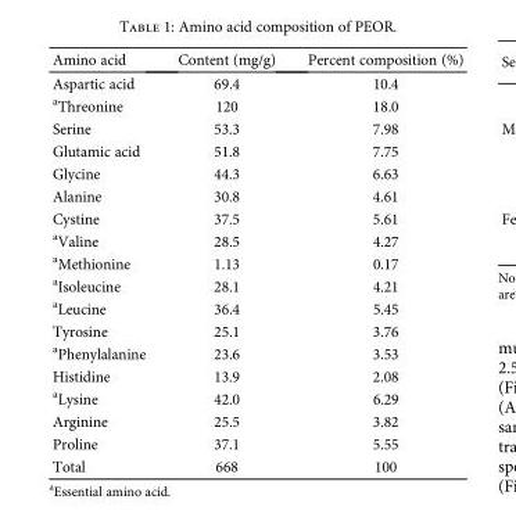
<table><thead><tr><td>Amino acid</td><td>Content (mg/g)</td><td>Percent composition (%)</td></tr></thead><tbody><tr><td>Aspartic acid</td><td>69.4</td><td>10.4</td></tr><tr><td><sup>a</sup>Threonine</td><td>120</td><td>18.0</td></tr><tr><td>Serine</td><td>53.3</td><td>7.98</td></tr><tr><td>Glutamic acid</td><td>51.8</td><td>7.75</td></tr><tr><td>Glycine</td><td>44.3</td><td>6.63</td></tr><tr><td>Alanine</td><td>30.8</td><td>4.61</td></tr><tr><td>Cystine</td><td>37.5</td><td>5.61</td></tr><tr><td><sup>a</sup>Valine</td><td>28.5</td><td>4.27</td></tr><tr><td><sup>a</sup>Methionine</td><td>1.13</td><td>0.17</td></tr><tr><td><sup>a</sup>Isoleucine</td><td>28.1</td><td>4.21</td></tr><tr><td><sup>a</sup>Leucine</td><td>36.4</td><td>5.45</td></tr><tr><td>Tyrosine</td><td>25.1</td><td>3.76</td></tr><tr><td><sup>a</sup>Phenylalanine</td><td>23.6</td><td>3.53</td></tr><tr><td>Histidine</td><td>13.9</td><td>2.08</td></tr><tr><td><sup>a</sup>Lysine</td><td>42.0</td><td>6.29</td></tr><tr><td>Arginine</td><td>25.5</td><td>3.82</td></tr><tr><td>Proline</td><td>37.1</td><td>5.55</td></tr><tr><td>Total</td><td>668</td><td>100</td></tr></tbody></table>